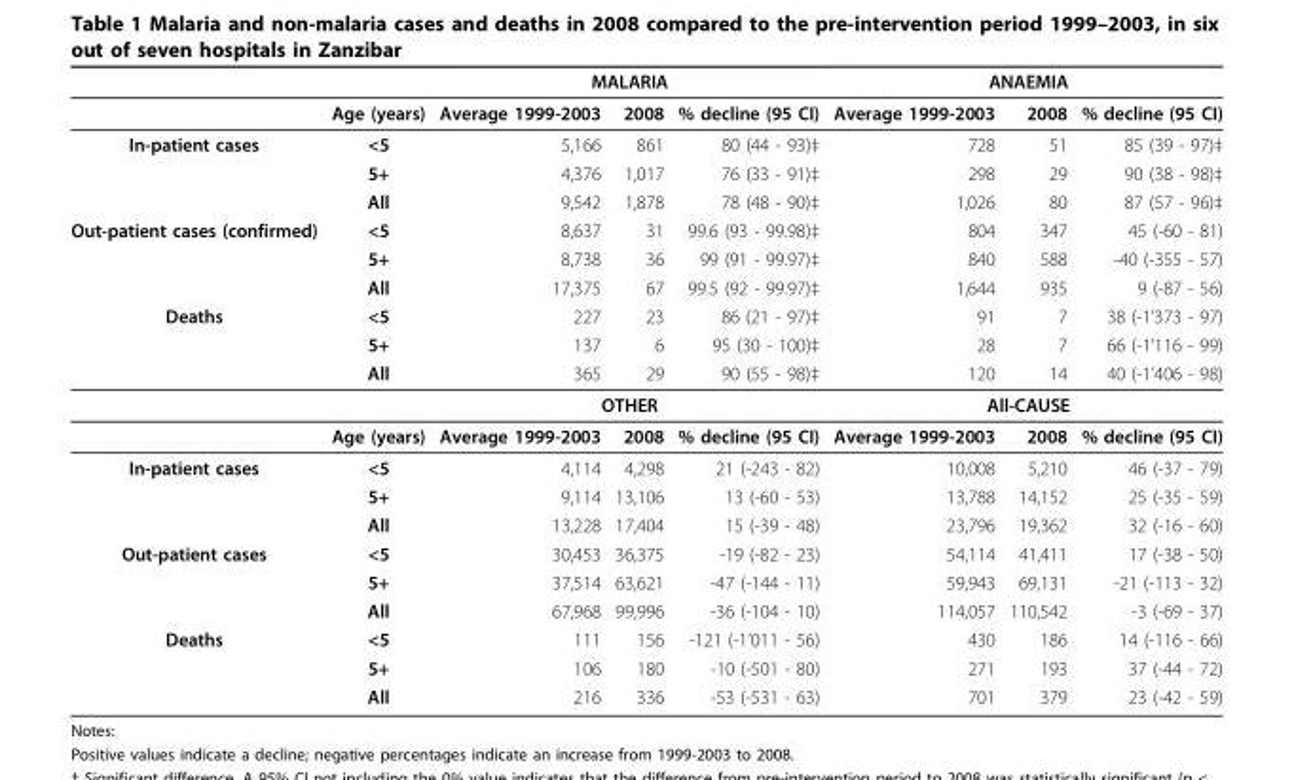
<table><thead><tr><td rowspan="2"></td><td rowspan="2">Age (years)</td><td colspan="3">MALARIA</td><td colspan="3">ANAEMIA</td></tr><tr><td>Average 1999-2003</td><td>2008</td><td>% decline (95 CI)</td><td>Average 1999-2003</td><td>2008</td><td>% decline (95 CI)</td></tr></thead><tbody><tr><td rowspan="3">In-patient cases</td><td>&lt;5</td><td>5,166</td><td>861</td><td>80 (44 - 93)‡</td><td>728</td><td>51</td><td>85 (39 - 97)‡</td></tr><tr><td>5+</td><td>4,376</td><td>1,017</td><td>76 (33 - 91)‡</td><td>298</td><td>29</td><td>90 (38 - 98)‡</td></tr><tr><td>All</td><td>9,542</td><td>1,878</td><td>78 (48 - 90)‡</td><td>1,026</td><td>80</td><td>87 (57 - 96)‡</td></tr><tr><td rowspan="3">Out-patient cases (confirmed)</td><td>&lt;5</td><td>8,637</td><td>31</td><td>99.6 (93 - 99.98)‡</td><td>804</td><td>347</td><td>45 (-60 - 81)</td></tr><tr><td>5+</td><td>8,738</td><td>36</td><td>99 (91 - 99.97)‡</td><td>840</td><td>588</td><td>-40 (-355 - 57)</td></tr><tr><td>All</td><td>17,375</td><td>67</td><td>99.5 (92 - 99.97)‡</td><td>1,644</td><td>935</td><td>9 (-87 - 56)</td></tr><tr><td rowspan="5">Deaths</td><td>&lt;5</td><td>227</td><td>23</td><td>86 (21 - 97)‡</td><td>91</td><td>7</td><td>38 (-1’373 - 97)</td></tr><tr><td>5+</td><td>137</td><td>6</td><td>95 (30 - 100)‡</td><td>28</td><td>7</td><td>66 (-1’116 - 99)</td></tr><tr><td>All</td><td>365</td><td>29</td><td>90 (55 - 98)‡</td><td>120</td><td>14</td><td>40 (-1’406 - 98)</td></tr><tr><td></td><td colspan="3">OTHER</td><td colspan="3">All-CAUSE</td></tr><tr><td>Age (years)</td><td>Average 1999-2003</td><td>2008</td><td>% decline (95 CI)</td><td>Average 1999-2003</td><td>2008</td><td>% decline (95 CI)</td></tr><tr><td rowspan="3">In-patient cases</td><td>&lt;5</td><td>4,114</td><td>4,298</td><td>21 (-243 - 82)</td><td>10,008</td><td>5,210</td><td>46 (-37 - 79)</td></tr><tr><td>5+</td><td>9,114</td><td>13,106</td><td>13 (-60 - 53)</td><td>13,788</td><td>14,152</td><td>25 (-35 - 59)</td></tr><tr><td>All</td><td>13,228</td><td>17,404</td><td>15 (-39 - 48)</td><td>23,796</td><td>19,362</td><td>32 (-16 - 60)</td></tr><tr><td rowspan="3">Out-patient cases</td><td>&lt;5</td><td>30,453</td><td>36,375</td><td>-19 (-82 - 23)</td><td>54,114</td><td>41,411</td><td>17 (-38 - 50)</td></tr><tr><td>5+</td><td>37,514</td><td>63,621</td><td>-47 (-144 - 11)</td><td>59,943</td><td>69,131</td><td>-21 (-113 - 32)</td></tr><tr><td>All</td><td>67,968</td><td>99,996</td><td>-36 (-104 - 10)</td><td>114,057</td><td>110,542</td><td>-3 (-69 - 37)</td></tr><tr><td rowspan="3">Deaths</td><td>&lt;5</td><td>111</td><td>156</td><td>-121 (-1’011 - 56)</td><td>430</td><td>186</td><td>14 (-116 - 66)</td></tr><tr><td>5+</td><td>106</td><td>180</td><td>-10 (-501 - 80)</td><td>271</td><td>193</td><td>37 (-44 - 72)</td></tr><tr><td>All</td><td>216</td><td>336</td><td>-53 (-531 - 63)</td><td>701</td><td>379</td><td>23 (-42 - 59)</td></tr></tbody></table>